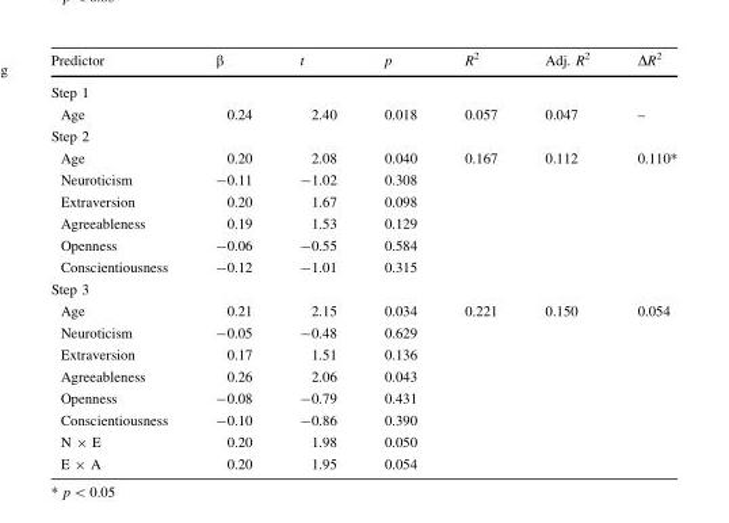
<table><thead><tr><td>Predictor</td><td>β</td><td>t</td><td>p</td><td>R<sup>2</sup></td><td>Adj. R<sup>2</sup></td><td>ΔR<sup>2</sup></td></tr></thead><tbody><tr><td colspan="7">Step 1</td></tr><tr><td>Age</td><td>0.24</td><td>2.40</td><td>0.018</td><td>0.057</td><td>0.047</td><td>–</td></tr><tr><td colspan="7">Step 2</td></tr><tr><td>Age</td><td>0.20</td><td>2.08</td><td>0.040</td><td>0.167</td><td>0.112</td><td>0.110*</td></tr><tr><td>Neuroticism</td><td>-0.11</td><td>-1.02</td><td>0.308</td><td></td><td></td><td></td></tr><tr><td>Extraversion</td><td>0.20</td><td>1.67</td><td>0.098</td><td></td><td></td><td></td></tr><tr><td>Agreeableness</td><td>0.19</td><td>1.53</td><td>0.129</td><td></td><td></td><td></td></tr><tr><td>Openness</td><td>-0.06</td><td>-0.55</td><td>0.584</td><td></td><td></td><td></td></tr><tr><td>Conscientiousness</td><td>-0.12</td><td>-1.01</td><td>0.315</td><td></td><td></td><td></td></tr><tr><td colspan="7">Step 3</td></tr><tr><td>Age</td><td>0.21</td><td>2.15</td><td>0.034</td><td>0.221</td><td>0.150</td><td>0.054</td></tr><tr><td>Neuroticism</td><td>-0.05</td><td>-0.48</td><td>0.629</td><td></td><td></td><td></td></tr><tr><td>Extraversion</td><td>0.17</td><td>1.51</td><td>0.136</td><td></td><td></td><td></td></tr><tr><td>Agreeableness</td><td>0.26</td><td>2.06</td><td>0.043</td><td></td><td></td><td></td></tr><tr><td>Openness</td><td>-0.08</td><td>-0.79</td><td>0.431</td><td></td><td></td><td></td></tr><tr><td>Conscientiousness</td><td>-0.10</td><td>-0.86</td><td>0.390</td><td></td><td></td><td></td></tr><tr><td>N × E</td><td>0.20</td><td>1.98</td><td>0.050</td><td></td><td></td><td></td></tr><tr><td>E × A</td><td>0.20</td><td>1.95</td><td>0.054</td><td></td><td></td><td></td></tr></tbody></table>